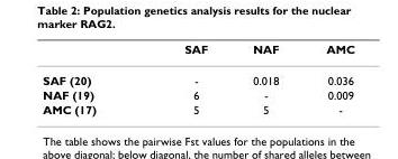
<table><thead><tr><td></td><td>SAF</td><td>NAF</td><td>AMC</td></tr></thead><tbody><tr><td>SAF (20)</td><td>-</td><td>0.018</td><td>0.036</td></tr><tr><td>NAF (19)</td><td>6</td><td>-</td><td>0.009</td></tr><tr><td>AMC (17)</td><td>5</td><td>5</td><td>-</td></tr></tbody></table>